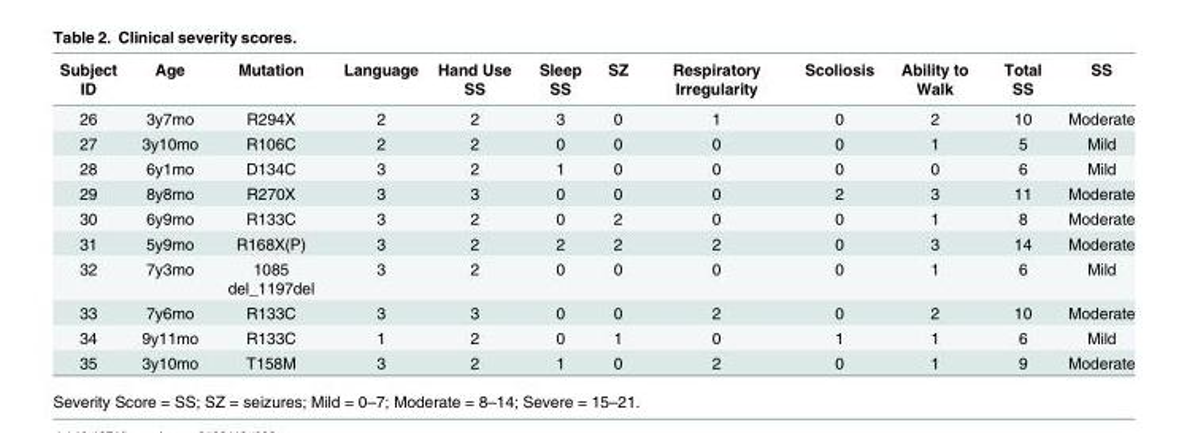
<table><thead><tr><td>Subject ID</td><td>Age</td><td>Mutation</td><td>Language</td><td>Hand Use SS</td><td>Sleep SS</td><td>SZ</td><td>Respiratory Irregularity</td><td>Scoliosis</td><td>Ability to Walk</td><td>Total SS</td><td>SS</td></tr></thead><tbody><tr><td>26</td><td>3y7mo</td><td>R294X</td><td>2</td><td>2</td><td>3</td><td>0</td><td>1</td><td>0</td><td>2</td><td>10</td><td>Moderate</td></tr><tr><td>27</td><td>3y10mo</td><td>R106C</td><td>2</td><td>2</td><td>0</td><td>0</td><td>0</td><td>0</td><td>1</td><td>5</td><td>Mild</td></tr><tr><td>28</td><td>6y1mo</td><td>D134C</td><td>3</td><td>2</td><td>1</td><td>0</td><td>0</td><td>0</td><td>0</td><td>6</td><td>Mild</td></tr><tr><td>29</td><td>8y8mo</td><td>R270X</td><td>3</td><td>3</td><td>0</td><td>0</td><td>0</td><td>2</td><td>3</td><td>11</td><td>Moderate</td></tr><tr><td>30</td><td>6y9mo</td><td>R133C</td><td>3</td><td>2</td><td>0</td><td>2</td><td>0</td><td>0</td><td>1</td><td>8</td><td>Moderate</td></tr><tr><td>31</td><td>5y9mo</td><td>R168X(P)</td><td>3</td><td>2</td><td>2</td><td>2</td><td>2</td><td>0</td><td>3</td><td>14</td><td>Moderate</td></tr><tr><td>32</td><td>7y3mo</td><td>1085 del_1197del</td><td>3</td><td>2</td><td>0</td><td>0</td><td>0</td><td>0</td><td>1</td><td>6</td><td>Mild</td></tr><tr><td>33</td><td>7y6mo</td><td>R133C</td><td>3</td><td>3</td><td>0</td><td>0</td><td>2</td><td>0</td><td>2</td><td>10</td><td>Moderate</td></tr><tr><td>34</td><td>9y11mo</td><td>R133C</td><td>1</td><td>2</td><td>0</td><td>1</td><td>0</td><td>1</td><td>1</td><td>6</td><td>Mild</td></tr><tr><td>35</td><td>3y10mo</td><td>T158M</td><td>3</td><td>2</td><td>1</td><td>0</td><td>2</td><td>0</td><td>1</td><td>9</td><td>Moderate</td></tr></tbody></table>